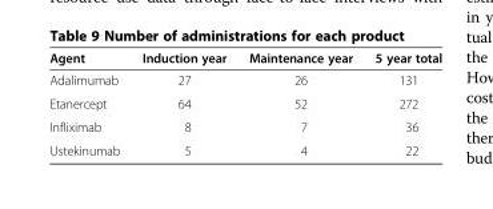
<table><thead><tr><td>Agent</td><td>Induction year</td><td>Maintenance year</td><td>5 year total</td></tr></thead><tbody><tr><td>Adalimumab</td><td>27</td><td>26</td><td>131</td></tr><tr><td>Etanercept</td><td>64</td><td>52</td><td>272</td></tr><tr><td>Infliximab</td><td>8</td><td>7</td><td>36</td></tr><tr><td>Ustekinumab</td><td>5</td><td>4</td><td>22</td></tr></tbody></table>